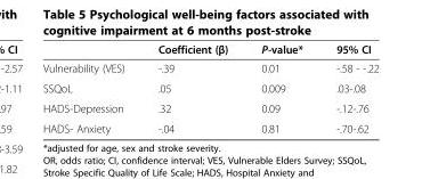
<table><thead><tr><td></td><td>Coefficient (β)</td><td>P-value*</td><td>95% CI</td></tr></thead><tbody><tr><td>Vulnerability (VES)</td><td>-.39</td><td>0.01</td><td>-.58 - -.22</td></tr><tr><td>SSQoL</td><td>.05</td><td>0.009</td><td>.03-.08</td></tr><tr><td>HADS-Depression</td><td>.32</td><td>0.09</td><td>-.12-.76</td></tr><tr><td>HADS- Anxiety</td><td>-.04</td><td>0.81</td><td>-.70-.62</td></tr></tbody></table>